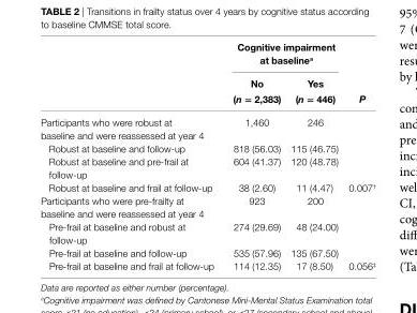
<table><thead><tr><td rowspan="3"></td><td colspan="2">cognitive impairment at baseline<sup>a</sup></td><td rowspan="3">P</td></tr><tr><td rowspan="2">no (n = 2,383)</td><td rowspan="2">Yes (n = 446)</td></tr><tr></tr></thead><tbody><tr><td>Participants who were robust at baseline and were reassessed at year 4</td><td>1,460</td><td>246</td><td></td></tr><tr><td>Robust at baseline and follow-up</td><td>818 (56.03)</td><td>115 (46.75)</td><td></td></tr><tr><td>Robust at baseline and pre-frail at follow-up</td><td>604 (41.37)</td><td>120 (48.78)</td><td></td></tr><tr><td>Robust at baseline and frail at follow-up</td><td>38 (2.60)</td><td>11 (4.47)</td><td>0.007<sup>†</sup></td></tr><tr><td>Participants who were pre-frailty at baseline and were reassessed at year 4</td><td>923</td><td>200</td><td></td></tr><tr><td>Pre-frail at baseline and robust at follow-up</td><td>274 (29.69)</td><td>48 (24.00)</td><td></td></tr><tr><td>Pre-frail at baseline and follow-up</td><td>535 (57.96)</td><td>135 (67.50)</td><td></td></tr><tr><td>Pre-frail at baseline and frail at follow-up</td><td>114 (12.35)</td><td>17 (8.50)</td><td>0.056<sup>‡</sup></td></tr></tbody></table>